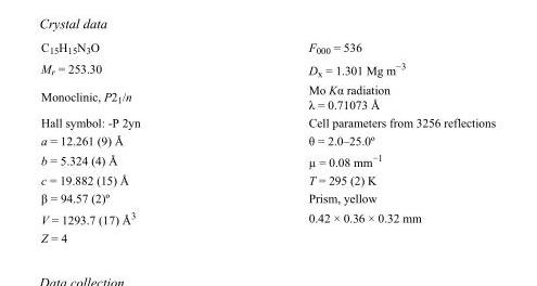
<table><tbody><tr><td>C<sub>15</sub>H<sub>15</sub>N<sub>3</sub>O</td><td>F<sub>000</sub> = 536</td></tr><tr><td>M<sub>r</sub> = 253.30</td><td>D<sub>x</sub> = 1.301 Mg m<sup>−3</sup></td></tr><tr><td>Monoclinic, P2<sub>1</sub>/n</td><td>Mo Kα radiation λ = 0.71073 Å</td></tr><tr><td>Hall symbol: -P 2yn</td><td>Cell parameters from 3256 reflections</td></tr><tr><td>a = 12.261 (9) Å</td><td>θ = 2.0–25.0º</td></tr><tr><td>b = 5.324 (4) Å</td><td>µ = 0.08 mm<sup>−1</sup></td></tr><tr><td>c = 19.882 (15) Å</td><td>T = 295 (2) K</td></tr><tr><td>β = 94.57 (2)º</td><td>Prism, yellow</td></tr><tr><td>V = 1293.7 (17) Å<sup>3</sup></td><td>0.42 × 0.36 × 0.32 mm</td></tr><tr><td>Z = 4</td><td></td></tr></tbody></table>